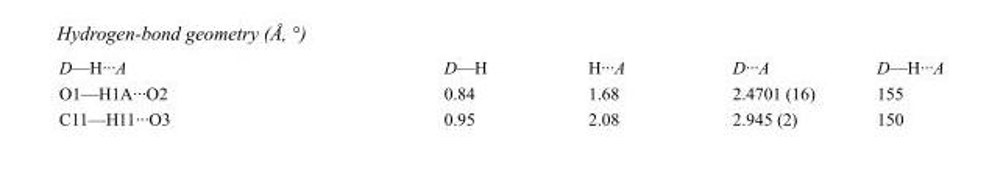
<table><tbody><tr><td>D—H···A</td><td>D—H</td><td>H···A</td><td>D···A</td><td>D—H···A</td></tr><tr><td>O1—H1A···O2</td><td>0.84</td><td>1.68</td><td>2.4701 (16)</td><td>155</td></tr><tr><td>C11—H11···O3</td><td>0.95</td><td>2.08</td><td>2.945 (2)</td><td>150</td></tr></tbody></table>